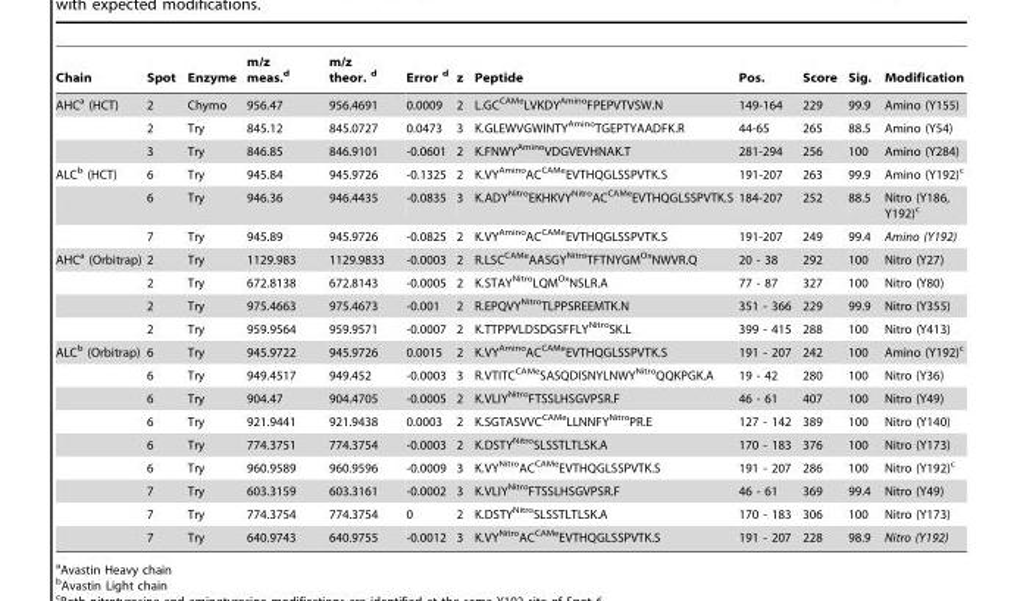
<table><thead><tr><td>Chain</td><td>Spot</td><td>Enzyme</td><td>m/z meas.<sup>d</sup></td><td>m/z theor. d</td><td>Error d</td><td>z</td><td>Peptide</td><td>Pos.</td><td>Score</td><td>Sig.</td><td>Modification</td></tr></thead><tbody><tr><td rowspan="3">AHC<sup>a</sup> (HCT)</td><td>2</td><td>Chymo</td><td>956.47</td><td>956.4691</td><td>0.0009</td><td>2</td><td>L.GC<sup>CAMe</sup>LVKDY<sup>Amino</sup>FPEPVTVSW.N</td><td>149-164</td><td>229</td><td>99.9</td><td>Amino (Y155)</td></tr><tr><td>2</td><td>Try</td><td>845.12</td><td>845.0727</td><td>0.0473</td><td>3</td><td>K.GLEWVGWINTY<sup>Amino</sup>TGEPTYAADFK.R</td><td>44-65</td><td>265</td><td>88.5</td><td>Amino (Y54)</td></tr><tr><td>3</td><td>Try</td><td>846.85</td><td>846.9101</td><td>-0.0601</td><td>2</td><td>K.FNWY<sup>Amino</sup>VDGVEVHNAK.T</td><td>281-294</td><td>256</td><td>100</td><td>Amino (Y284)</td></tr><tr><td rowspan="3">ALC<sup>b</sup> (HCT)</td><td>6</td><td>Try</td><td>945.84</td><td>945.9726</td><td>-0.1325</td><td>2</td><td>K.VY<sup>Amino</sup>AC<sup>CAMe</sup>EVTHQGLSSPVTK.S</td><td>191-207</td><td>263</td><td>99.9</td><td>Amino (Y192)<sup>c</sup></td></tr><tr><td>6</td><td>Try</td><td>946.36</td><td>946.4435</td><td>-0.0835</td><td>3</td><td>K.ADY<sup>Nitro</sup>EKHKVY<sup>Nitro</sup>AC<sup>CAMe</sup>EVTHQGLSSPVTK.S</td><td>184-207</td><td>252</td><td>88.5</td><td>Nitro (Y186, Y192)<sup>c</sup></td></tr><tr><td>7</td><td>Try</td><td>945.89</td><td>945.9726</td><td>-0.0825</td><td>2</td><td>K.VY<sup>Amino</sup>AC<sup>CAMe</sup>EVTHQGLSSPVTK.S</td><td>191-207</td><td>249</td><td>99.4</td><td>Amino (Y192)</td></tr><tr><td rowspan="4">AHC<sup>a</sup> (Orbitrap)</td><td>2</td><td>Try</td><td>1129.983</td><td>1129.9833</td><td>-0.0003</td><td>2</td><td>R.LSC<sup>CAMe</sup>AASGY<sup>Nitro</sup>TFTNYGM<sup>Ox</sup>NWVR.Q</td><td>20 - 38</td><td>292</td><td>100</td><td>Nitro (Y27)</td></tr><tr><td>2</td><td>Try</td><td>672.8138</td><td>672.8143</td><td>-0.0005</td><td>2</td><td>K.STAY<sup>Nitro</sup>LQM<sup>Ox</sup>NSLR.A</td><td>77 - 87</td><td>327</td><td>100</td><td>Nitro (Y80)</td></tr><tr><td>2</td><td>Try</td><td>975.4663</td><td>975.4673</td><td>-0.001</td><td>2</td><td>R.EPQVY<sup>Nitro</sup>TLPPSREEMTK.N</td><td>351 - 366</td><td>229</td><td>99.9</td><td>Nitro (Y355)</td></tr><tr><td>2</td><td>Try</td><td>959.9564</td><td>959.9571</td><td>-0.0007</td><td>2</td><td>K.TTPPVLDSDGSFFLY<sup>Nitro</sup>SK.L</td><td>399 - 415</td><td>288</td><td>100</td><td>Nitro (Y413)</td></tr><tr><td rowspan="9">ALC<sup>b</sup> (Orbitrap)</td><td>6</td><td>Try</td><td>945.9722</td><td>945.9726</td><td>0.0015</td><td>2</td><td>K.VY<sup>Amino</sup>AC<sup>CAMe</sup>EVTHQGLSSPVTK.S</td><td>191 - 207</td><td>242</td><td>100</td><td>Amino (Y192)<sup>c</sup></td></tr><tr><td>6</td><td>Try</td><td>949.4517</td><td>949.452</td><td>-0.0003</td><td>3</td><td>R.VTITC<sup>CAMe</sup>SASQDISNYLNWY<sup>Nitro</sup>QQKPGK.A</td><td>19 - 42</td><td>280</td><td>100</td><td>Nitro (Y36)</td></tr><tr><td>6</td><td>Try</td><td>904.47</td><td>904.4705</td><td>-0.0005</td><td>2</td><td>K.VLIY<sup>Nitro</sup>FTSSLHSGVPSR.F</td><td>46 - 61</td><td>407</td><td>100</td><td>Nitro (Y49)</td></tr><tr><td>6</td><td>Try</td><td>921.9441</td><td>921.9438</td><td>0.0003</td><td>2</td><td>K.SGTASVVC<sup>CAMe</sup>LLNNFY<sup>Nitro</sup>PR.E</td><td>127 - 142</td><td>389</td><td>100</td><td>Nitro (Y140)</td></tr><tr><td>6</td><td>Try</td><td>774.3751</td><td>774.3754</td><td>-0.0003</td><td>2</td><td>K.DSTY<sup>Nitro</sup>SLSSTLTLSK.A</td><td>170 - 183</td><td>376</td><td>100</td><td>Nitro (Y173)</td></tr><tr><td>6</td><td>Try</td><td>960.9589</td><td>960.9596</td><td>-0.0009</td><td>3</td><td>K.VY<sup>Nitro</sup>AC<sup>CAMe</sup>EVTHQGLSSPVTK.S</td><td>191 - 207</td><td>286</td><td>100</td><td>Nitro (Y192)<sup>c</sup></td></tr><tr><td>7</td><td>Try</td><td>603.3159</td><td>603.3161</td><td>-0.0002</td><td>3</td><td>K.VLIY<sup>Nitro</sup>FTSSLHSGVPSR.F</td><td>46 - 61</td><td>369</td><td>99.4</td><td>Nitro (Y49)</td></tr><tr><td>7</td><td>Try</td><td>774.3754</td><td>774.3754</td><td>0</td><td>2</td><td>K.DSTY<sup>Nitro</sup>SLSSTLTLSK.A</td><td>170 - 183</td><td>306</td><td>100</td><td>Nitro (Y173)</td></tr><tr><td>7</td><td>Try</td><td>640.9743</td><td>640.9755</td><td>-0.0012</td><td>3</td><td>K.VY<sup>Nitro</sup>AC<sup>CAMe</sup>EVTHQGLSSPVTK.S</td><td>191 - 207</td><td>228</td><td>98.9</td><td>Nitro (Y192)</td></tr></tbody></table>